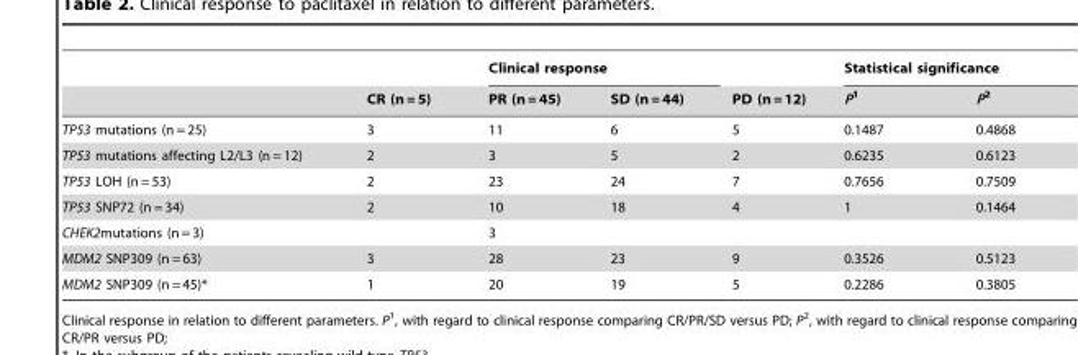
<table><thead><tr><td rowspan="2"></td><td rowspan="2">CR (n = 5)</td><td colspan="2">Clinical response</td><td rowspan="2">PD (n = 12)</td><td colspan="2">Statistical significance</td></tr><tr><td>PR (n = 45)</td><td>SD (n = 44)</td><td>P<sup>1</sup></td><td>P<sup>2</sup></td></tr></thead><tbody><tr><td>TP53 mutations (n = 25)</td><td>3</td><td>11</td><td>6</td><td>5</td><td>0.1487</td><td>0.4868</td></tr><tr><td>TP53 mutations affecting L2/L3 (n = 12)</td><td>2</td><td>3</td><td>5</td><td>2</td><td>0.6235</td><td>0.6123</td></tr><tr><td>TP53 LOH (n = 53)</td><td>2</td><td>23</td><td>24</td><td>7</td><td>0.7656</td><td>0.7509</td></tr><tr><td>TP53 SNP72 (n = 34)</td><td>2</td><td>10</td><td>18</td><td>4</td><td>1</td><td>0.1464</td></tr><tr><td>CHEK2mutations (n = 3)</td><td></td><td>3</td><td></td><td></td><td></td><td></td></tr><tr><td>MDM2 SNP309 (n = 63)</td><td>3</td><td>28</td><td>23</td><td>9</td><td>0.3526</td><td>0.5123</td></tr><tr><td>MDM2 SNP309 (n = 45)*</td><td>1</td><td>20</td><td>19</td><td>5</td><td>0.2286</td><td>0.3805</td></tr></tbody></table>